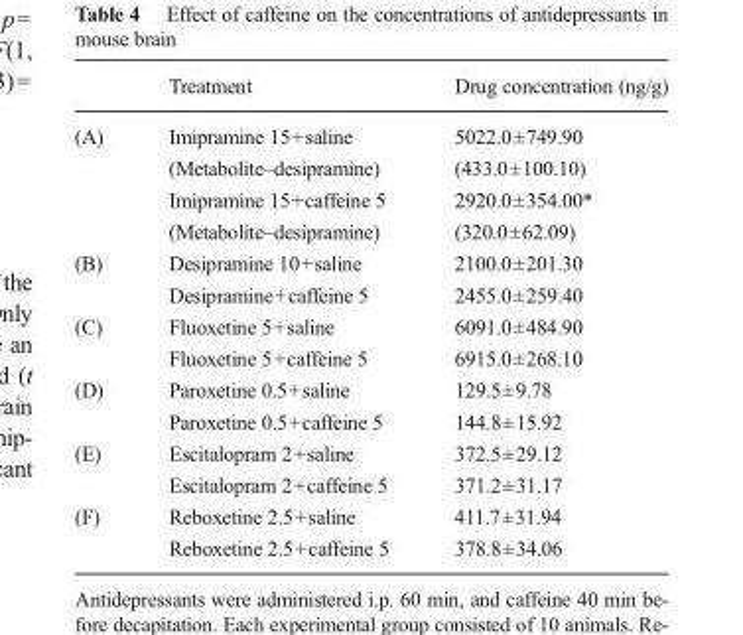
<table><thead><tr><td></td><td>Treatment</td><td>Drug concentration (ng/g)</td></tr></thead><tbody><tr><td rowspan="4">(A)</td><td>Imipramine 15+saline</td><td>5022.0±749.90</td></tr><tr><td>(Metabolite–desipramine)</td><td>(433.0±100.10)</td></tr><tr><td>Imipramine 15+caffeine 5</td><td>2920.0±354.00*</td></tr><tr><td>(Metabolite–desipramine)</td><td>(320.0±62.09)</td></tr><tr><td rowspan="2">(B)</td><td>Desipramine 10+saline</td><td>2100.0±201.30</td></tr><tr><td>Desipramine+caffeine 5</td><td>2455.0±259.40</td></tr><tr><td rowspan="2">(C)</td><td>Fluoxetine 5+saline</td><td>6091.0±484.90</td></tr><tr><td>Fluoxetine 5+caffeine 5</td><td>6915.0±268.10</td></tr><tr><td rowspan="2">(D)</td><td>Paroxetine 0.5+saline</td><td>129.5±9.78</td></tr><tr><td>Paroxetine 0.5+caffeine 5</td><td>144.8±15.92</td></tr><tr><td rowspan="2">(E)</td><td>Escitalopram 2+saline</td><td>372.5±29.12</td></tr><tr><td>Escitalopram 2+caffeine 5</td><td>371.2±31.17</td></tr><tr><td rowspan="2">(F)</td><td>Reboxetine 2.5+saline</td><td>411.7±31.94</td></tr><tr><td>Reboxetine 2.5+caffeine 5</td><td>378.8±34.06</td></tr></tbody></table>